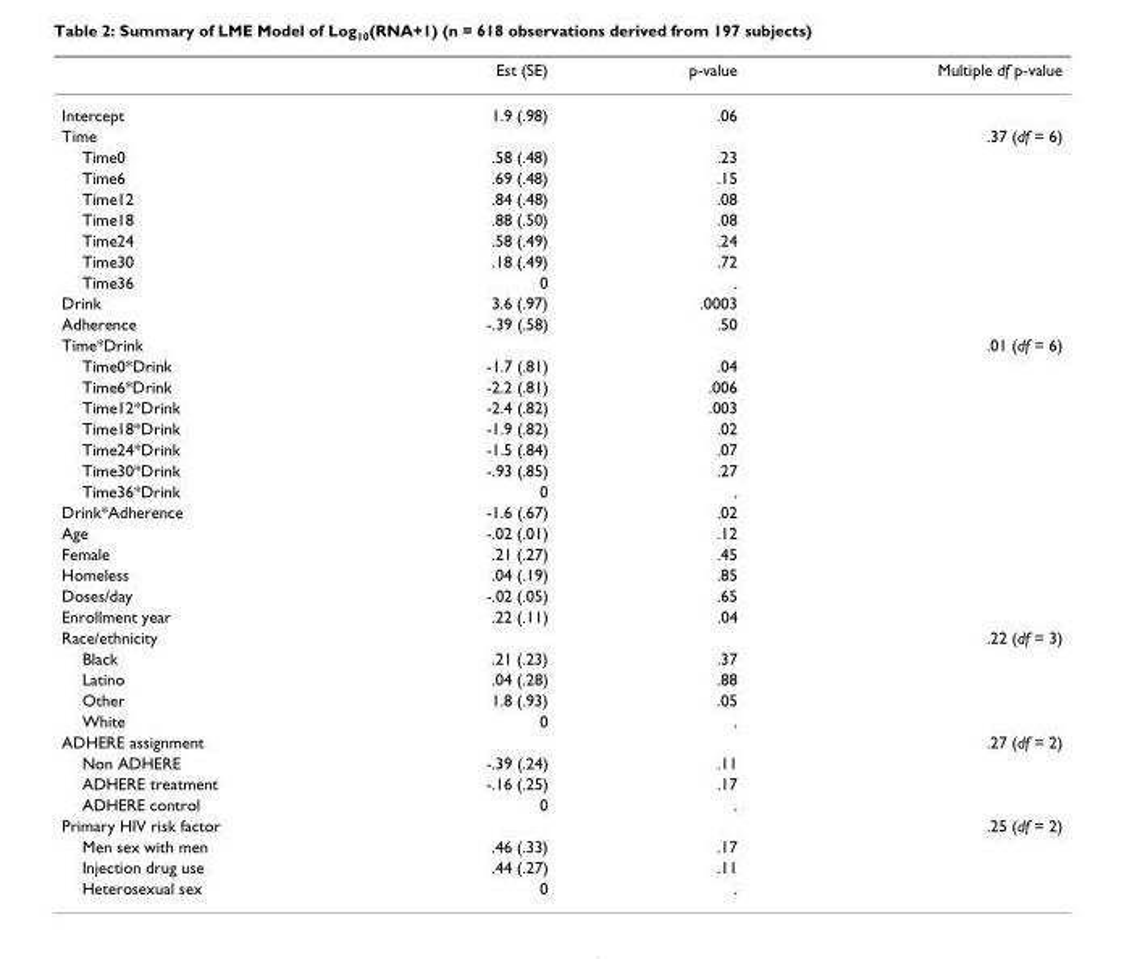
<table><thead><tr><td></td><td>Est (SE)</td><td>p-value</td><td>Multiple df p-value</td></tr></thead><tbody><tr><td>Intercept</td><td>1.9 (.98)</td><td>.06</td><td></td></tr><tr><td>Time</td><td></td><td></td><td>.37 (df = 6)</td></tr><tr><td>Time0</td><td>.58 (.48)</td><td>.23</td><td></td></tr><tr><td>Time6</td><td>.69 (.48)</td><td>.15</td><td></td></tr><tr><td>Time12</td><td>.84 (.48)</td><td>.08</td><td></td></tr><tr><td>Time18</td><td>.88 (.50)</td><td>.08</td><td></td></tr><tr><td>Time24</td><td>.58 (.49)</td><td>.24</td><td></td></tr><tr><td>Time30</td><td>.18 (.49)</td><td>.72</td><td></td></tr><tr><td>Time36</td><td>0</td><td>.</td><td></td></tr><tr><td>Drink</td><td>3.6 (.97)</td><td>.0003</td><td></td></tr><tr><td>Adherence</td><td>-.39 (.58)</td><td>.50</td><td></td></tr><tr><td>Time*Drink</td><td></td><td></td><td>.01 (df = 6)</td></tr><tr><td>Time0*Drink</td><td>-1.7 (.81)</td><td>.04</td><td></td></tr><tr><td>Time6*Drink</td><td>-2.2 (.81)</td><td>.006</td><td></td></tr><tr><td>Time12*Drink</td><td>-2.4 (.82)</td><td>.003</td><td></td></tr><tr><td>Time18*Drink</td><td>-1.9 (.82)</td><td>.02</td><td></td></tr><tr><td>Time24*Drink</td><td>-1.5 (.84)</td><td>.07</td><td></td></tr><tr><td>Time30*Drink</td><td>-.93 (.85)</td><td>.27</td><td></td></tr><tr><td>Time36*Drink</td><td>0</td><td>.</td><td></td></tr><tr><td>Drink*Adherence</td><td>-1.6 (.67)</td><td>.02</td><td></td></tr><tr><td>Age</td><td>-.02 (.01)</td><td>.12</td><td></td></tr><tr><td>Female</td><td>.21 (.27)</td><td>.45</td><td></td></tr><tr><td>Homeless</td><td>.04 (.19)</td><td>.85</td><td></td></tr><tr><td>Doses/day</td><td>-.02 (.05)</td><td>.65</td><td></td></tr><tr><td>Enrollment year</td><td>.22 (.11)</td><td>.04</td><td></td></tr><tr><td>Race/ethnicity</td><td></td><td></td><td>.22 (df = 3)</td></tr><tr><td>Black</td><td>.21 (.23)</td><td>.37</td><td></td></tr><tr><td>Latino</td><td>.04 (.28)</td><td>.88</td><td></td></tr><tr><td>Other</td><td>1.8 (.93)</td><td>.05</td><td></td></tr><tr><td>White</td><td>0</td><td>.</td><td></td></tr><tr><td>ADHERE assignment</td><td></td><td></td><td>.27 (df = 2)</td></tr><tr><td>Non ADHERE</td><td>-.39 (.24)</td><td>.11</td><td></td></tr><tr><td>ADHERE treatment</td><td>-.16 (.25)</td><td>.17</td><td></td></tr><tr><td>ADHERE control</td><td>0</td><td>.</td><td></td></tr><tr><td>Primary HIV risk factor</td><td></td><td></td><td>.25 (df = 2)</td></tr><tr><td>Men sex with men</td><td>.46 (.33)</td><td>.17</td><td></td></tr><tr><td>Injection drug use</td><td>.44 (.27)</td><td>.11</td><td></td></tr><tr><td>Heterosexual sex</td><td>0</td><td>.</td><td></td></tr></tbody></table>